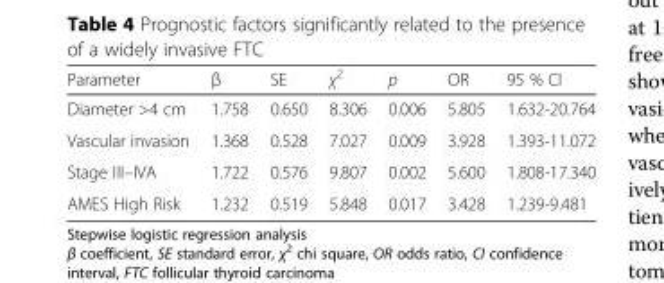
<table><thead><tr><td>Parameter</td><td>β</td><td>SE</td><td>χ<sup>2</sup></td><td>p</td><td>OR</td><td>95 % CI</td></tr></thead><tbody><tr><td>Diameter &gt;4 cm</td><td>1.758</td><td>0.650</td><td>8.306</td><td>0.006</td><td>5.805</td><td>1.632-20.764</td></tr><tr><td>Vascular invasion</td><td>1.368</td><td>0.528</td><td>7.027</td><td>0.009</td><td>3.928</td><td>1.393-11.072</td></tr><tr><td>Stage III–IVA</td><td>1.722</td><td>0.576</td><td>9.807</td><td>0.002</td><td>5.600</td><td>1.808-17.340</td></tr><tr><td>AMES High Risk</td><td>1.232</td><td>0.519</td><td>5.848</td><td>0.017</td><td>3.428</td><td>1.239-9.481</td></tr></tbody></table>